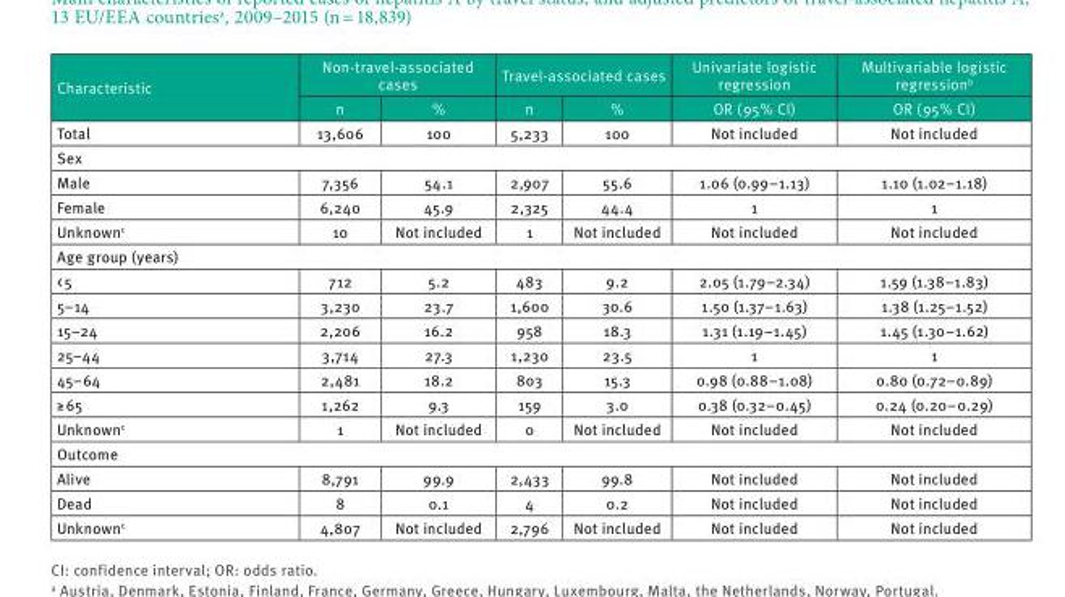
<table><thead><tr><td rowspan="2">Characteristic</td><td colspan="2">Non-travel-associated cases</td><td colspan="2">Travel-associated cases</td><td rowspan="2">Univariate logistic regression OR (95% CI)</td><td rowspan="2">Multivariable logistic regression<sup>b</sup> OR (95% CI)</td></tr><tr><td>n</td><td>%</td><td>n</td><td>%</td></tr></thead><tbody><tr><td>Total</td><td>13,606</td><td>100</td><td>5,233</td><td>100</td><td>Not included</td><td>Not included</td></tr><tr><td colspan="7">Sex</td></tr><tr><td>Male</td><td>7,356</td><td>54.1</td><td>2,907</td><td>55.6</td><td>1.06 (0.99–1.13)</td><td>1.10 (1.02–1.18)</td></tr><tr><td>Female</td><td>6,240</td><td>45.9</td><td>2,325</td><td>44.4</td><td>1</td><td>1</td></tr><tr><td>Unknown<sup>c</sup></td><td>10</td><td>Not included</td><td>1</td><td>Not included</td><td>Not included</td><td>Not included</td></tr><tr><td colspan="7">Age group (years)</td></tr><tr><td>&lt; 5</td><td>712</td><td>5.2</td><td>483</td><td>9.2</td><td>2.05 (1.79–2.34)</td><td>1.59 (1.38–1.83)</td></tr><tr><td>5–14</td><td>3,230</td><td>23.7</td><td>1,600</td><td>30.6</td><td>1.50 (1.37–1.63)</td><td>1.38 (1.25–1.52)</td></tr><tr><td>15–24</td><td>2,206</td><td>16.2</td><td>958</td><td>18.3</td><td>1.31 (1.19–1.45)</td><td>1.45 (1.30–1.62)</td></tr><tr><td>25–44</td><td>3,714</td><td>27.3</td><td>1,230</td><td>23.5</td><td>1</td><td>1</td></tr><tr><td>45–64</td><td>2,481</td><td>18.2</td><td>803</td><td>15.3</td><td>0.98 (0.88–1.08)</td><td>0.80 (0.72–0.89)</td></tr><tr><td>≥ 65</td><td>1,262</td><td>9.3</td><td>159</td><td>3.0</td><td>0.38 (0.32–0.45)</td><td>0.24 (0.20–0.29)</td></tr><tr><td>Unknown<sup>c</sup></td><td>1</td><td>Not included</td><td>0</td><td>Not included</td><td>Not included</td><td>Not included</td></tr><tr><td colspan="7">Outcome</td></tr><tr><td>Alive</td><td>8,791</td><td>99.9</td><td>2,433</td><td>99.8</td><td>Not included</td><td>Not included</td></tr><tr><td>Dead</td><td>8</td><td>0.1</td><td>4</td><td>0.2</td><td>Not included</td><td>Not included</td></tr><tr><td>Unknown<sup>c</sup></td><td>4,807</td><td>Not included</td><td>2,796</td><td>Not included</td><td>Not included</td><td>Not included</td></tr></tbody></table>